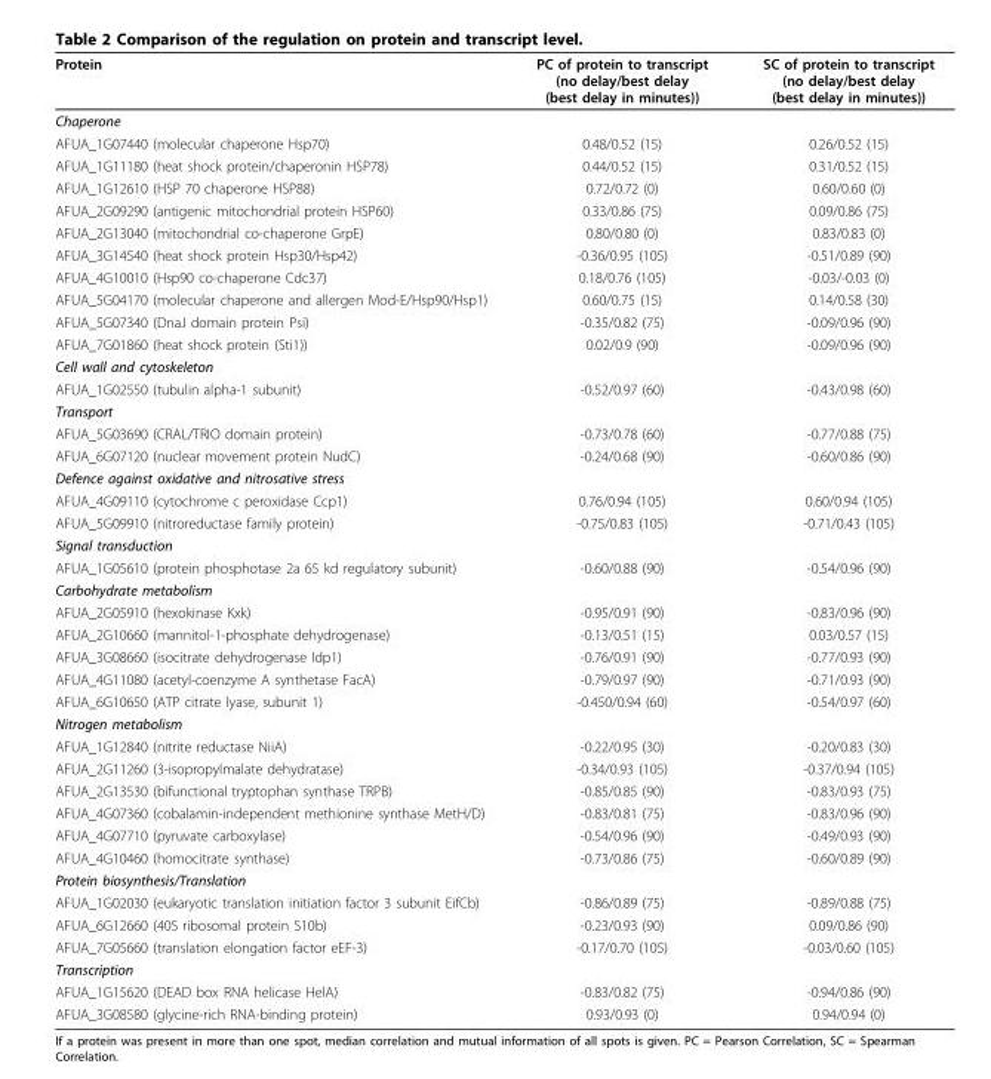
<table><thead><tr><td>Protein</td><td>PC of protein to transcript (no delay/best delay (best delay in minutes))</td><td>SC of protein to transcript (no delay/best delay (best delay in minutes))</td></tr></thead><tbody><tr><td colspan="3">Chaperone</td></tr><tr><td>AFUA_1G07440 (molecular chaperone Hsp70)</td><td>0.48/0.52 (15)</td><td>0.26/0.52 (15)</td></tr><tr><td>AFUA_1G11180 (heat shock protein/chaperonin HSP78)</td><td>0.44/0.52 (15)</td><td>0.31/0.52 (15)</td></tr><tr><td>AFUA_1G12610 (HSP 70 chaperone HSP88)</td><td>0.72/0.72 (0)</td><td>0.60/0.60 (0)</td></tr><tr><td>AFUA_2G09290 (antigenic mitochondrial protein HSP60)</td><td>0.33/0.86 (75)</td><td>0.09/0.86 (75)</td></tr><tr><td>AFUA_2G13040 (mitochondrial co-chaperone GrpE)</td><td>0.80/0.80 (0)</td><td>0.83/0.83 (0)</td></tr><tr><td>AFUA_3G14540 (heat shock protein Hsp30/Hsp42)</td><td>-0.36/0.95 (105)</td><td>-0.51/0.89 (90)</td></tr><tr><td>AFUA_4G10010 (Hsp90 co-chaperone Cdc37)</td><td>0.18/0.76 (105)</td><td>-0.03/-0.03 (0)</td></tr><tr><td>AFUA_5G04170 (molecular chaperone and allergen Mod-E/Hsp90/Hsp1)</td><td>0.60/0.75 (15)</td><td>0.14/0.58 (30)</td></tr><tr><td>AFUA_5G07340 (DnaJ domain protein Psi)</td><td>-0.35/0.82 (75)</td><td>-0.09/0.96 (90)</td></tr><tr><td>AFUA_7G01860 (heat shock protein (Sti1))</td><td>0.02/0.9 (90)</td><td>-0.09/0.96 (90)</td></tr><tr><td colspan="3">Cell wall and cytoskeleton</td></tr><tr><td>AFUA_1G02550 (tubulin alpha-1 subunit)</td><td>-0.52/0.97 (60)</td><td>-0.43/0.98 (60)</td></tr><tr><td colspan="3">Transport</td></tr><tr><td>AFUA_5G03690 (CRAL/TRIO domain protein)</td><td>-0.73/0.78 (60)</td><td>-0.77/0.88 (75)</td></tr><tr><td>AFUA_6G07120 (nuclear movement protein NudC)</td><td>-0.24/0.68 (90)</td><td>-0.60/0.86 (90)</td></tr><tr><td colspan="3">Defence against oxidative and nitrosative stress</td></tr><tr><td>AFUA_4G09110 (cytochrome c peroxidase Ccp1)</td><td>0.76/0.94 (105)</td><td>0.60/0.94 (105)</td></tr><tr><td>AFUA_5G09910 (nitroreductase family protein)</td><td>-0.75/0.83 (105)</td><td>-0.71/0.43 (105)</td></tr><tr><td colspan="3">Signal transduction</td></tr><tr><td>AFUA_1G05610 (protein phosphotase 2a 65 kd regulatory subunit)</td><td>-0.60/0.88 (90)</td><td>-0.54/0.96 (90)</td></tr><tr><td colspan="3">Carbohydrate metabolism</td></tr><tr><td>AFUA_2G05910 (hexokinase Kxk)</td><td>-0.95/0.91 (90)</td><td>-0.83/0.96 (90)</td></tr><tr><td>AFUA_2G10660 (mannitol-1-phosphate dehydrogenase)</td><td>-0.13/0.51 (15)</td><td>0.03/0.57 (15)</td></tr><tr><td>AFUA_3G08660 (isocitrate dehydrogenase Idp1)</td><td>-0.76/0.91 (90)</td><td>-0.77/0.93 (90)</td></tr><tr><td>AFUA_4G11080 (acetyl-coenzyme A synthetase FacA)</td><td>-0.79/0.97 (90)</td><td>-0.71/0.93 (90)</td></tr><tr><td>AFUA_6G10650 (ATP citrate lyase, subunit 1)</td><td>-0.450/0.94 (60)</td><td>-0.54/0.97 (60)</td></tr><tr><td colspan="3">Nitrogen metabolism</td></tr><tr><td>AFUA_1G12840 (nitrite reductase NiiA)</td><td>-0.22/0.95 (30)</td><td>-0.20/0.83 (30)</td></tr><tr><td>AFUA_2G11260 (3-isopropylmalate dehydratase)</td><td>-0.34/0.93 (105)</td><td>-0.37/0.94 (105)</td></tr><tr><td>AFUA_2G13530 (bifunctional tryptophan synthase TRPB)</td><td>-0.85/0.85 (90)</td><td>-0.83/0.93 (75)</td></tr><tr><td>AFUA_4G07360 (cobalamin-independent methionine synthase MetH/D)</td><td>-0.83/0.81 (75)</td><td>-0.83/0.96 (90)</td></tr><tr><td>AFUA_4G07710 (pyruvate carboxylase)</td><td>-0.54/0.96 (90)</td><td>-0.49/0.93 (90)</td></tr><tr><td>AFUA_4G10460 (homocitrate synthase)</td><td>-0.73/0.86 (75)</td><td>-0.60/0.89 (90)</td></tr><tr><td colspan="3">Protein biosynthesis/Translation</td></tr><tr><td>AFUA_1G02030 (eukaryotic translation initiation factor 3 subunit EifCb)</td><td>-0.86/0.89 (75)</td><td>-0.89/0.88 (75)</td></tr><tr><td>AFUA_6G12660 (40S ribosomal protein S10b)</td><td>-0.23/0.93 (90)</td><td>0.09/0.86 (90)</td></tr><tr><td>AFUA_7G05660 (translation elongation factor eEF-3)</td><td>-0.17/0.70 (105)</td><td>-0.03/0.60 (105)</td></tr><tr><td colspan="3">Transcription</td></tr><tr><td>AFUA_1G15620 (DEAD box RNA helicase HelA)</td><td>-0.83/0.82 (75)</td><td>-0.94/0.86 (90)</td></tr><tr><td>AFUA_3G08580 (glycine-rich RNA-binding protein)</td><td>0.93/0.93 (0)</td><td>0.94/0.94 (0)</td></tr></tbody></table>